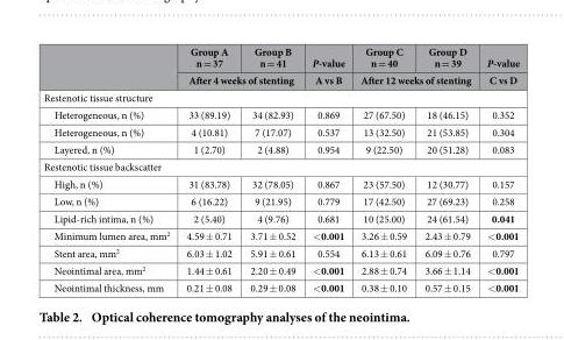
<table><thead><tr><td rowspan="2"></td><td>Group A n = 37</td><td>Group B n = 41</td><td rowspan="2">P-value A vs B</td><td>Group C n = 40</td><td>Group D n = 39</td><td rowspan="2">P-value C vs D</td></tr><tr><td colspan="2">After 4 weeks of stenting</td><td colspan="2">After 12 weeks of stenting</td></tr></thead><tbody><tr><td colspan="7">Restenotic tissue structure</td></tr><tr><td>Heterogeneous, n (%)</td><td>33 (89.19)</td><td>34 (82.93)</td><td>0.869</td><td>27 (67.50)</td><td>18 (46.15)</td><td>0.352</td></tr><tr><td>Heterogeneous, n (%)</td><td>4 (10.81)</td><td>7 (17.07)</td><td>0.537</td><td>13 (32.50)</td><td>21 (53.85)</td><td>0.304</td></tr><tr><td>Layered, n (%)</td><td>1 (2.70)</td><td>2 (4.88)</td><td>0.954</td><td>9 (22.50)</td><td>20 (51.28)</td><td>0.083</td></tr><tr><td colspan="7">Restenotic tissue backscatter</td></tr><tr><td>High, n (%)</td><td>31 (83.78)</td><td>32 (78.05)</td><td>0.867</td><td>23 (57.50)</td><td>12 (30.77)</td><td>0.157</td></tr><tr><td>Low, n (%)</td><td>6 (16.22)</td><td>9 (21.95)</td><td>0.779</td><td>17 (42.50)</td><td>27 (69.23)</td><td>0.258</td></tr><tr><td>Lipid-rich intima, n (%)</td><td>2 (5.40)</td><td>4 (9.76)</td><td>0.681</td><td>10 (25.00)</td><td>24 (61.54)</td><td>0.041</td></tr><tr><td>Minimum lumen area, mm<sup>2</sup></td><td>4.59 ± 0.71</td><td>3.71 ± 0.52</td><td>&lt; 0.001</td><td>3.26 ± 0.59</td><td>2.43 ± 0.79</td><td>&lt; 0.001</td></tr><tr><td>Stent area, mm<sup>2</sup></td><td>6.03 ± 1.02</td><td>5.91 ± 0.61</td><td>0.554</td><td>6.13 ± 0.61</td><td>6.09 ± 0.76</td><td>0.797</td></tr><tr><td>Neointimal area, mm<sup>2</sup></td><td>1.44 ± 0.61</td><td>2.20 ± 0.49</td><td>&lt; 0.001</td><td>2.88 ± 0.74</td><td>3.66 ± 1.14</td><td>&lt; 0.001</td></tr><tr><td>Neointimal thickness, mm</td><td>0.21 ± 0.08</td><td>0.29 ± 0.08</td><td>&lt; 0.001</td><td>0.38 ± 0.10</td><td>0.57 ± 0.15</td><td>&lt; 0.001</td></tr></tbody></table>